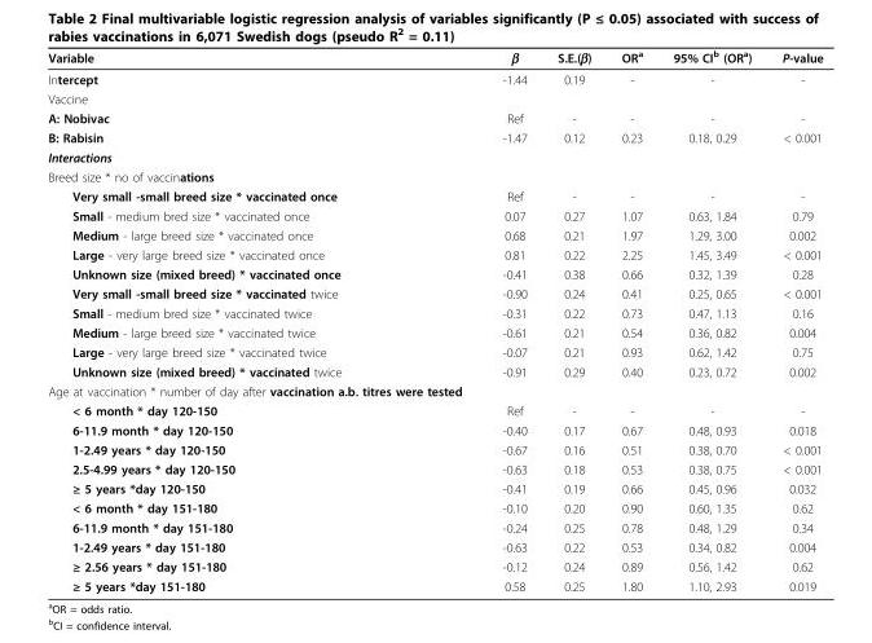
<table><thead><tr><td>Variable</td><td>β</td><td>S.E.(β)</td><td>OR<sup>a</sup></td><td>95% CI<sup>b</sup> (OR<sup>a</sup>)</td><td>P-value</td></tr></thead><tbody><tr><td>Intercept</td><td>-1.44</td><td>0.19</td><td>-</td><td>-</td><td>-</td></tr><tr><td colspan="6">Vaccine</td></tr><tr><td>A: Nobivac</td><td>Ref</td><td>-</td><td>-</td><td>-</td><td>-</td></tr><tr><td>B: Rabisin</td><td>-1.47</td><td>0.12</td><td>0.23</td><td>0.18, 0.29</td><td>&lt; 0.001</td></tr><tr><td colspan="6">Interactions</td></tr><tr><td colspan="6">Breed size * no of vaccinations</td></tr><tr><td>Very small -small breed size * vaccinated once</td><td>Ref</td><td>-</td><td>-</td><td>-</td><td>-</td></tr><tr><td>Small - medium bred size * vaccinated once</td><td>0.07</td><td>0.27</td><td>1.07</td><td>0.63, 1.84</td><td>0.79</td></tr><tr><td>Medium - large breed size * vaccinated once</td><td>0.68</td><td>0.21</td><td>1.97</td><td>1.29, 3.00</td><td>0.002</td></tr><tr><td>Large - very large breed size * vaccinated once</td><td>0.81</td><td>0.22</td><td>2.25</td><td>1.45, 3.49</td><td>&lt; 0.001</td></tr><tr><td>Unknown size (mixed breed) * vaccinated once</td><td>-0.41</td><td>0.38</td><td>0.66</td><td>0.32, 1.39</td><td>0.28</td></tr><tr><td>Very small -small breed size * vaccinated twice</td><td>-0.90</td><td>0.24</td><td>0.41</td><td>0.25, 0.65</td><td>&lt; 0.001</td></tr><tr><td>Small - medium bred size * vaccinated twice</td><td>-0.31</td><td>0.22</td><td>0.73</td><td>0.47, 1.13</td><td>0.16</td></tr><tr><td>Medium - large breed size * vaccinated twice</td><td>-0.61</td><td>0.21</td><td>0.54</td><td>0.36, 0.82</td><td>0.004</td></tr><tr><td>Large - very large breed size * vaccinated twice</td><td>-0.07</td><td>0.21</td><td>0.93</td><td>0.62, 1.42</td><td>0.75</td></tr><tr><td>Unknown size (mixed breed) * vaccinated twice</td><td>-0.91</td><td>0.29</td><td>0.40</td><td>0.23, 0.72</td><td>0.002</td></tr><tr><td colspan="6">Age at vaccination * number of day after vaccination a.b. titres were tested</td></tr><tr><td>&lt; 6 month * day 120-150</td><td>Ref</td><td>-</td><td>-</td><td>-</td><td>-</td></tr><tr><td>6-11.9 month * day 120-150</td><td>-0.40</td><td>0.17</td><td>0.67</td><td>0.48, 0.93</td><td>0.018</td></tr><tr><td>1-2.49 years * day 120-150</td><td>-0.67</td><td>0.16</td><td>0.51</td><td>0.38, 0.70</td><td>&lt; 0.001</td></tr><tr><td>2.5-4.99 years * day 120-150</td><td>-0.63</td><td>0.18</td><td>0.53</td><td>0.38, 0.75</td><td>&lt; 0.001</td></tr><tr><td>≥ 5 years *day 120-150</td><td>-0.41</td><td>0.19</td><td>0.66</td><td>0.45, 0.96</td><td>0.032</td></tr><tr><td>&lt; 6 month * day 151-180</td><td>-0.10</td><td>0.20</td><td>0.90</td><td>0.60, 1.35</td><td>0.62</td></tr><tr><td>6-11.9 month * day 151-180</td><td>-0.24</td><td>0.25</td><td>0.78</td><td>0.48, 1.29</td><td>0.34</td></tr><tr><td>1-2.49 years * day 151-180</td><td>-0.63</td><td>0.22</td><td>0.53</td><td>0.34, 0.82</td><td>0.004</td></tr><tr><td>≥ 2.56 years * day 151-180</td><td>-0.12</td><td>0.24</td><td>0.89</td><td>0.56, 1.42</td><td>0.62</td></tr><tr><td>≥ 5 years *day 151-180</td><td>0.58</td><td>0.25</td><td>1.80</td><td>1.10, 2.93</td><td>0.019</td></tr></tbody></table>